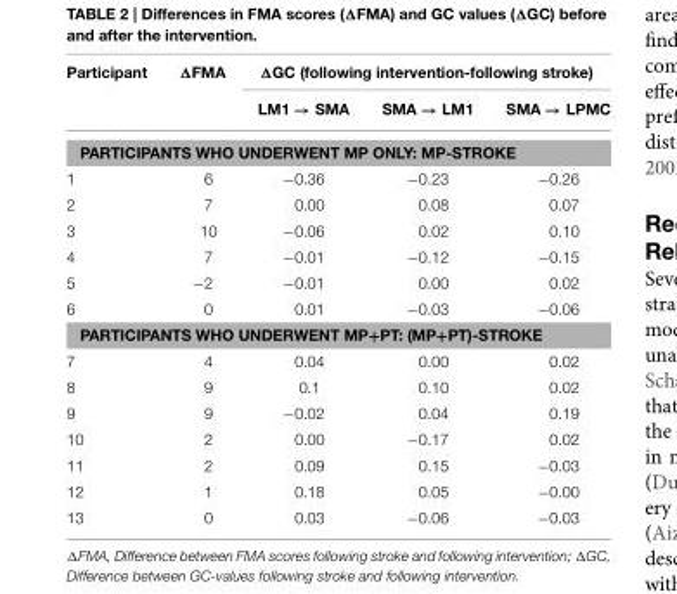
<table><thead><tr><td rowspan="2">Participant</td><td rowspan="2">ΔFMA</td><td colspan="3">ΔGC (following intervention-following stroke)</td></tr><tr><td>LM1 → SMA</td><td>SMA → LM1</td><td>SMA → LPMC</td></tr></thead><tbody><tr><td colspan="5">PARTICIPANTS WHO UNDERWENT MP ONLY: MP-STROKE</td></tr><tr><td>1</td><td>6</td><td>−0.36</td><td>−0.23</td><td>−0.26</td></tr><tr><td>2</td><td>7</td><td>0.00</td><td>0.08</td><td>0.07</td></tr><tr><td>3</td><td>10</td><td>−0.06</td><td>0.02</td><td>0.10</td></tr><tr><td>4</td><td>7</td><td>−0.01</td><td>−0.12</td><td>−0.15</td></tr><tr><td>5</td><td>−2</td><td>−0.01</td><td>0.00</td><td>0.02</td></tr><tr><td>6</td><td>0</td><td>0.01</td><td>−0.03</td><td>−0.06</td></tr><tr><td colspan="5">PARTICIPANTS WHO UNDERWENT MP+PT: (MP+PT)-STROKE</td></tr><tr><td>7</td><td>4</td><td>0.04</td><td>0.00</td><td>0.02</td></tr><tr><td>8</td><td>9</td><td>0.1</td><td>0.10</td><td>0.02</td></tr><tr><td>9</td><td>9</td><td>−0.02</td><td>0.04</td><td>0.19</td></tr><tr><td>10</td><td>2</td><td>0.00</td><td>−0.17</td><td>0.02</td></tr><tr><td>11</td><td>2</td><td>0.09</td><td>0.15</td><td>−0.03</td></tr><tr><td>12</td><td>1</td><td>0.18</td><td>0.05</td><td>−0.00</td></tr><tr><td>13</td><td>0</td><td>0.03</td><td>−0.06</td><td>−0.03</td></tr></tbody></table>